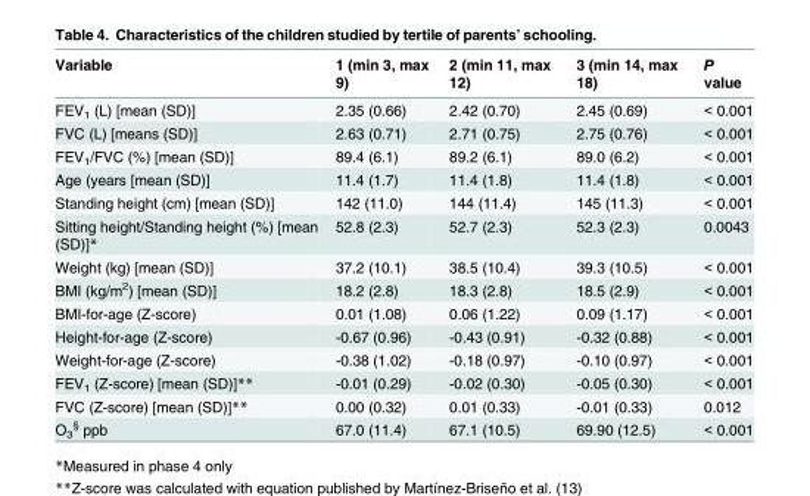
<table><thead><tr><td>Variable</td><td>1 (min 3, max 9)</td><td>2 (min 11, max 12)</td><td>3 (min 14, max 18)</td><td>P value</td></tr></thead><tbody><tr><td>FEV<sub>1</sub> (L) [mean (SD)]</td><td>2.35 (0.66)</td><td>2.42 (0.70)</td><td>2.45 (0.69)</td><td>&lt; 0.001</td></tr><tr><td>FVC (L) [means (SD)]</td><td>2.63 (0.71)</td><td>2.71 (0.75)</td><td>2.75 (0.76)</td><td>&lt; 0.001</td></tr><tr><td>FEV<sub>1</sub>/FVC (%) [mean (SD)]</td><td>89.4 (6.1)</td><td>89.2 (6.1)</td><td>89.0 (6.2)</td><td>&lt; 0.001</td></tr><tr><td>Age (years [mean (SD)]</td><td>11.4 (1.7)</td><td>11.4 (1.8)</td><td>11.4 (1.8)</td><td>&lt; 0.001</td></tr><tr><td>Standing height (cm) [mean (SD)]</td><td>142 (11.0)</td><td>144 (11.4)</td><td>145 (11.3)</td><td>&lt; 0.001</td></tr><tr><td>Sitting height/Standing height (%) [mean (SD)]*</td><td>52.8 (2.3)</td><td>52.7 (2.3)</td><td>52.3 (2.3)</td><td>0.0043</td></tr><tr><td>Weight (kg) [mean (SD)]</td><td>37.2 (10.1)</td><td>38.5 (10.4)</td><td>39.3 (10.5)</td><td>&lt; 0.001</td></tr><tr><td>BMI (kg/m<sup>2</sup>) [mean (SD)]</td><td>18.2 (2.8)</td><td>18.3 (2.8)</td><td>18.5 (2.9)</td><td>&lt; 0.001</td></tr><tr><td>BMI-for-age (Z-score)</td><td>0.01 (1.08)</td><td>0.06 (1.22)</td><td>0.09 (1.17)</td><td>&lt; 0.001</td></tr><tr><td>Height-for-age (Z-score)</td><td>-0.67 (0.96)</td><td>-0.43 (0.91)</td><td>-0.32 (0.88)</td><td>&lt; 0.001</td></tr><tr><td>Weight-for-age (Z-score)</td><td>-0.38 (1.02)</td><td>-0.18 (0.97)</td><td>-0.10 (0.97)</td><td>&lt; 0.001</td></tr><tr><td>FEV<sub>1</sub> (Z-score) [mean (SD)]**</td><td>-0.01 (0.29)</td><td>-0.02 (0.30)</td><td>-0.05 (0.30)</td><td>&lt; 0.001</td></tr><tr><td>FVC (Z-score) [mean (SD)]**</td><td>0.00 (0.32)</td><td>0.01 (0.33)</td><td>-0.01 (0.33)</td><td>0.012</td></tr><tr><td>O<sub>3</sub> <sup>§</sup> ppb</td><td>67.0 (11.4)</td><td>67.1 (10.5)</td><td>69.90 (12.5)</td><td>&lt; 0.001</td></tr></tbody></table>